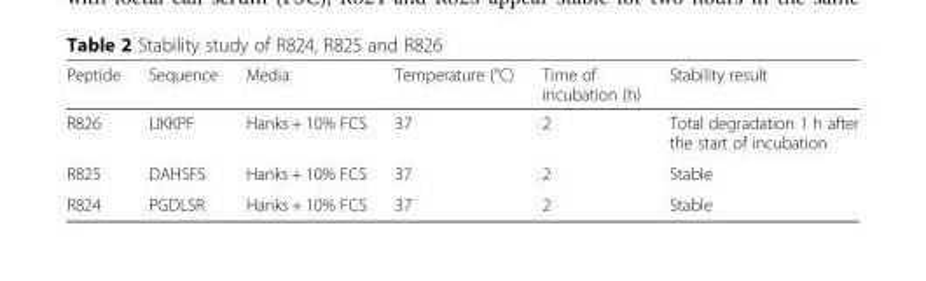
<table><thead><tr><td>Peptide</td><td>Sequence</td><td>Media</td><td>Temperature (°C)</td><td>Time of incubation (h)</td><td>Stability result</td></tr></thead><tbody><tr><td>R826</td><td>LIKKPF</td><td>Hanks + 10% FCS</td><td>37</td><td>2</td><td>Total degradation 1 h after the start of incubation</td></tr><tr><td>R825</td><td>DAHSFS</td><td>Hanks + 10% FCS</td><td>37</td><td>2</td><td>Stable</td></tr><tr><td>R824</td><td>PGDLSR</td><td>Hanks + 10% FCS</td><td>37</td><td>2</td><td>Stable</td></tr></tbody></table>